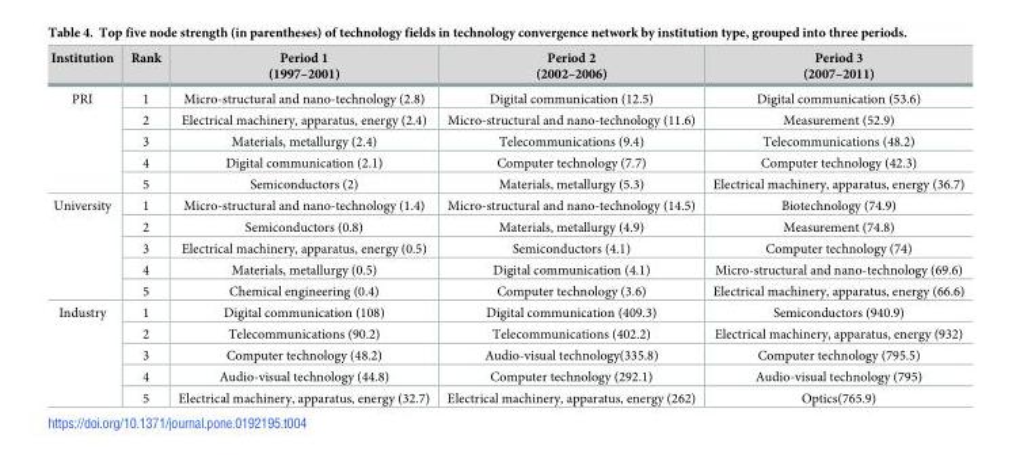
<table><thead><tr><td>Institution</td><td>Rank</td><td>Period 1 (1997–2001)</td><td>Period 2 (2002–2006)</td><td>Period 3 (2007–2011)</td></tr></thead><tbody><tr><td rowspan="5">PRI</td><td>1</td><td>Micro-structural and nano-technology (2.8)</td><td>Digital communication (12.5)</td><td>Digital communication (53.6)</td></tr><tr><td>2</td><td>Electrical machinery, apparatus, energy (2.4)</td><td>Micro-structural and nano-technology (11.6)</td><td>Measurement (52.9)</td></tr><tr><td>3</td><td>Materials, metallurgy (2.4)</td><td>Telecommunications (9.4)</td><td>Telecommunications (48.2)</td></tr><tr><td>4</td><td>Digital communication (2.1)</td><td>Computer technology (7.7)</td><td>Computer technology (42.3)</td></tr><tr><td>5</td><td>Semiconductors (2)</td><td>Materials, metallurgy (5.3)</td><td>Electrical machinery, apparatus, energy (36.7)</td></tr><tr><td rowspan="5">University</td><td>1</td><td>Micro-structural and nano-technology (1.4)</td><td>Micro-structural and nano-technology (14.5)</td><td>Biotechnology (74.9)</td></tr><tr><td>2</td><td>Semiconductors (0.8)</td><td>Materials, metallurgy (4.9)</td><td>Measurement (74.8)</td></tr><tr><td>3</td><td>Electrical machinery, apparatus, energy (0.5)</td><td>Semiconductors (4.1)</td><td>Computer technology (74)</td></tr><tr><td>4</td><td>Materials, metallurgy (0.5)</td><td>Digital communication (4.1)</td><td>Micro-structural and nano-technology (69.6)</td></tr><tr><td>5</td><td>Chemical engineering (0.4)</td><td>Computer technology (3.6)</td><td>Electrical machinery, apparatus, energy (66.6)</td></tr><tr><td rowspan="5">Industry</td><td>1</td><td>Digital communication (108)</td><td>Digital communication (409.3)</td><td>Semiconductors (940.9)</td></tr><tr><td>2</td><td>Telecommunications (90.2)</td><td>Telecommunications (402.2)</td><td>Electrical machinery, apparatus, energy (932)</td></tr><tr><td>3</td><td>Computer technology (48.2)</td><td>Audio-visual technology(335.8)</td><td>Computer technology (795.5)</td></tr><tr><td>4</td><td>Audio-visual technology (44.8)</td><td>Computer technology (292.1)</td><td>Audio-visual technology (795)</td></tr><tr><td>5</td><td>Electrical machinery, apparatus, energy (32.7)</td><td>Electrical machinery, apparatus, energy (262)</td><td>Optics(765.9)</td></tr></tbody></table>